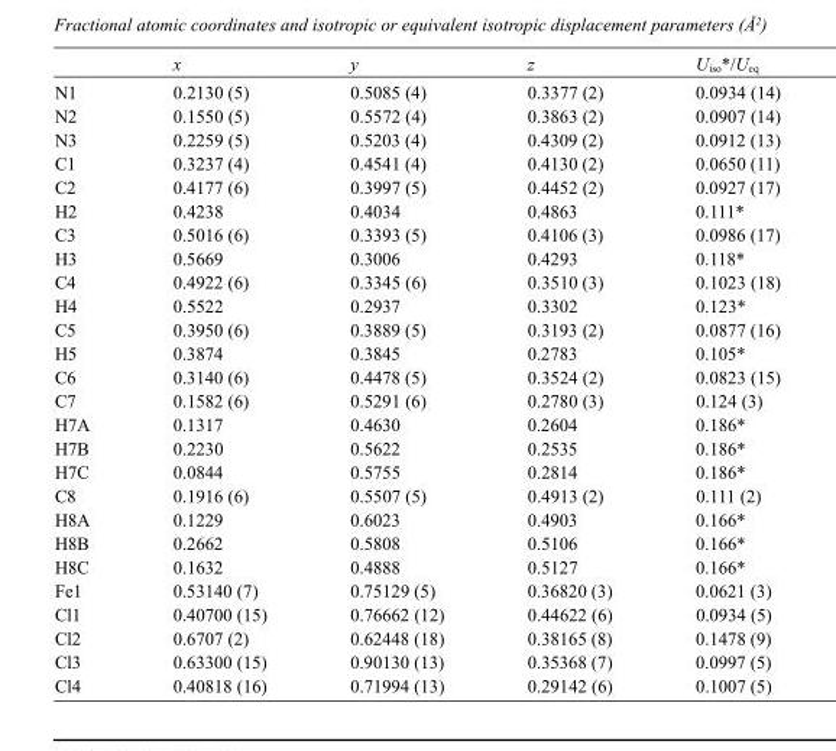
<table><thead><tr><td></td><td>x</td><td>y</td><td>z</td><td>U<sub>iso</sub>*/U<sub>eq</sub></td></tr></thead><tbody><tr><td>N1</td><td>0.2130 (5)</td><td>0.5085 (4)</td><td>0.3377 (2)</td><td>0.0934 (14)</td></tr><tr><td>N2</td><td>0.1550 (5)</td><td>0.5572 (4)</td><td>0.3863 (2)</td><td>0.0907 (14)</td></tr><tr><td>N3</td><td>0.2259 (5)</td><td>0.5203 (4)</td><td>0.4309 (2)</td><td>0.0912 (13)</td></tr><tr><td>C1</td><td>0.3237 (4)</td><td>0.4541 (4)</td><td>0.4130 (2)</td><td>0.0650 (11)</td></tr><tr><td>C2</td><td>0.4177 (6)</td><td>0.3997 (5)</td><td>0.4452 (2)</td><td>0.0927 (17)</td></tr><tr><td>H2</td><td>0.4238</td><td>0.4034</td><td>0.4863</td><td>0.111*</td></tr><tr><td>C3</td><td>0.5016 (6)</td><td>0.3393 (5)</td><td>0.4106 (3)</td><td>0.0986 (17)</td></tr><tr><td>H3</td><td>0.5669</td><td>0.3006</td><td>0.4293</td><td>0.118*</td></tr><tr><td>C4</td><td>0.4922 (6)</td><td>0.3345 (6)</td><td>0.3510 (3)</td><td>0.1023 (18)</td></tr><tr><td>H4</td><td>0.5522</td><td>0.2937</td><td>0.3302</td><td>0.123*</td></tr><tr><td>C5</td><td>0.3950 (6)</td><td>0.3889 (5)</td><td>0.3193 (2)</td><td>0.0877 (16)</td></tr><tr><td>H5</td><td>0.3874</td><td>0.3845</td><td>0.2783</td><td>0.105*</td></tr><tr><td>C6</td><td>0.3140 (6)</td><td>0.4478 (5)</td><td>0.3524 (2)</td><td>0.0823 (15)</td></tr><tr><td>C7</td><td>0.1582 (6)</td><td>0.5291 (6)</td><td>0.2780 (3)</td><td>0.124 (3)</td></tr><tr><td>H7A</td><td>0.1317</td><td>0.4630</td><td>0.2604</td><td>0.186*</td></tr><tr><td>H7B</td><td>0.2230</td><td>0.5622</td><td>0.2535</td><td>0.186*</td></tr><tr><td>H7C</td><td>0.0844</td><td>0.5755</td><td>0.2814</td><td>0.186*</td></tr><tr><td>C8</td><td>0.1916 (6)</td><td>0.5507 (5)</td><td>0.4913 (2)</td><td>0.111 (2)</td></tr><tr><td>H8A</td><td>0.1229</td><td>0.6023</td><td>0.4903</td><td>0.166*</td></tr><tr><td>H8B</td><td>0.2662</td><td>0.5808</td><td>0.5106</td><td>0.166*</td></tr><tr><td>H8C</td><td>0.1632</td><td>0.4888</td><td>0.5127</td><td>0.166*</td></tr><tr><td>Fe1</td><td>0.53140 (7)</td><td>0.75129 (5)</td><td>0.36820 (3)</td><td>0.0621 (3)</td></tr><tr><td>Cl1</td><td>0.40700 (15)</td><td>0.76662 (12)</td><td>0.44622 (6)</td><td>0.0934 (5)</td></tr><tr><td>Cl2</td><td>0.6707 (2)</td><td>0.62448 (18)</td><td>0.38165 (8)</td><td>0.1478 (9)</td></tr><tr><td>Cl3</td><td>0.63300 (15)</td><td>0.90130 (13)</td><td>0.35368 (7)</td><td>0.0997 (5)</td></tr><tr><td>Cl4</td><td>0.40818 (16)</td><td>0.71994 (13)</td><td>0.29142 (6)</td><td>0.1007 (5)</td></tr></tbody></table>